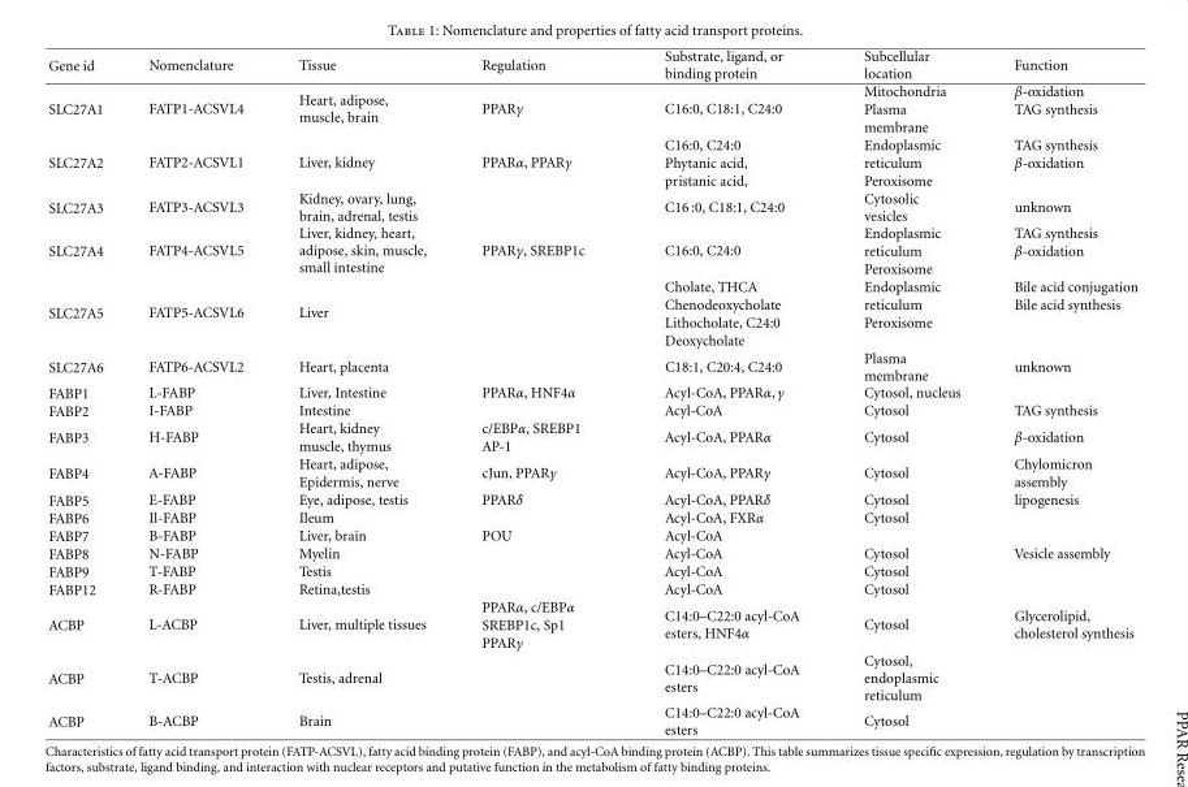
<table><thead><tr><td>Gene id</td><td>Nomenclature</td><td>Tissue</td><td>Regulation</td><td>Substrate, ligand, or binding protein</td><td>Subcellular location</td><td>Function</td></tr></thead><tbody><tr><td rowspan="3">SLC27A1</td><td rowspan="3">FATP1-ACSVL4</td><td rowspan="3">Heart, adipose, muscle, brain</td><td rowspan="3">PPARγ</td><td rowspan="3">C16:0, C18:1, C24:0</td><td>Mitochondria</td><td>β-oxidation</td></tr><tr><td>Plasma</td><td>TAG synthesis</td></tr><tr><td>membrane</td><td></td></tr><tr><td rowspan="3">SLC27A2</td><td rowspan="3">FATP2-ACSVL1</td><td rowspan="3">Liver, kidney</td><td rowspan="3">PPARα, PPARγ</td><td>C16:0, C24:0</td><td>Endoplasmic</td><td>TAG synthesis</td></tr><tr><td>Phytanic acid,</td><td>reticulum</td><td>β-oxidation</td></tr><tr><td>pristanic acid,</td><td>Peroxisome</td><td></td></tr><tr><td>SLC27A3</td><td>FATP3-ACSVL3</td><td>Kidney, ovary, lung, brain, adrenal, testis</td><td></td><td>C16 :0, C18:1, C24:0</td><td>Cytosolic vesicles</td><td>unknown</td></tr><tr><td rowspan="3">SLC27A4</td><td rowspan="3">FATP4-ACSVL5</td><td rowspan="3">Liver, kidney, heart, adipose, skin, muscle, small intestine</td><td rowspan="3">PPARγ, SREBP1c</td><td rowspan="3">C16:0, C24:0</td><td>Endoplasmic</td><td>TAG synthesis</td></tr><tr><td>reticulum</td><td>β-oxidation</td></tr><tr><td>Peroxisome</td><td></td></tr><tr><td rowspan="4">SLC27A5</td><td rowspan="4">FATP5-ACSVL6</td><td rowspan="4">Liver</td><td></td><td>Cholate, THCA</td><td>Endoplasmic</td><td>Bile acid conjugation</td></tr><tr><td></td><td>Chenodeoxycholate</td><td>reticulum</td><td>Bile acid synthesis</td></tr><tr><td></td><td>Lithocholate, C24:0</td><td>Peroxisome</td><td></td></tr><tr><td></td><td>Deoxycholate</td><td></td><td></td></tr><tr><td>SLC27A6</td><td>FATP6-ACSVL2</td><td>Heart, placenta</td><td></td><td>C18:1, C20:4, C24:0</td><td>Plasma membrane</td><td>unknown</td></tr><tr><td>FABP1</td><td>L-FABP</td><td>Liver, Intestine</td><td>PPARα, HNF4α</td><td>Acyl-CoA, PPARα,γ</td><td>Cytosol, nucleus</td><td></td></tr><tr><td>FABP2</td><td>I-FABP</td><td>Intestine</td><td></td><td>Acyl-CoA</td><td>Cytosol</td><td>TAG synthesis</td></tr><tr><td rowspan="2">FABP3</td><td rowspan="2">H-FABP</td><td>Heart, kidney</td><td>c/EBPα, SREBP1</td><td rowspan="2">Acyl-CoA, PPARα</td><td rowspan="2">Cytosol</td><td rowspan="2">β-oxidation</td></tr><tr><td>muscle, thymus</td><td>AP-1</td></tr><tr><td rowspan="2">FABP4</td><td rowspan="2">A-FABP</td><td>Heart, adipose,</td><td rowspan="2">cJun, PPARγ</td><td rowspan="2">Acyl-CoA, PPARγ</td><td rowspan="2">Cytosol</td><td>Chylomicron</td></tr><tr><td>Epidermis, nerve</td><td>assembly</td></tr><tr><td>FABP5</td><td>E-FABP</td><td>Eye, adipose, testis</td><td>PPARδ</td><td>Acyl-CoA, PPARδ</td><td>Cytosol</td><td>lipogenesis</td></tr><tr><td>FABP6</td><td>Il-FABP</td><td>Ileum</td><td></td><td>Acyl-CoA, FXRα</td><td>Cytosol</td><td></td></tr><tr><td>FABP7</td><td>B-FABP</td><td>Liver, brain</td><td>POU</td><td>Acyl-CoA</td><td></td><td></td></tr><tr><td>FABP8</td><td>N-FABP</td><td>Myelin</td><td></td><td>Acyl-CoA</td><td>Cytosol</td><td>Vesicle assembly</td></tr><tr><td>FABP9</td><td>T-FABP</td><td>Testis</td><td></td><td>Acyl-CoA</td><td>Cytosol</td><td></td></tr><tr><td>FABP12</td><td>R-FABP</td><td>Retina,testis</td><td></td><td>Acyl-CoA</td><td>Cytosol</td><td></td></tr><tr><td rowspan="3">ACBP</td><td rowspan="3">L-ACBP</td><td rowspan="3">Liver, multiple tissues</td><td>PPARα, c/EBPα</td><td rowspan="3">C14:0–C22:0 acyl-CoA esters, HNF4α</td><td rowspan="3">Cytosol</td><td rowspan="3">Glycerolipid, cholesterol synthesis</td></tr><tr><td>SREBP1c, Sp1</td></tr><tr><td>PPARγ</td></tr><tr><td>ACBP</td><td>T-ACBP</td><td>Testis, adrenal</td><td></td><td>C14:0–C22:0 acyl-CoA esters</td><td>Cytosol, endoplasmic reticulum</td><td></td></tr><tr><td>ACBP</td><td>B-ACBP</td><td>Brain</td><td></td><td>C14:0–C22:0 acyl-CoA esters</td><td>Cytosol</td><td></td></tr></tbody></table>